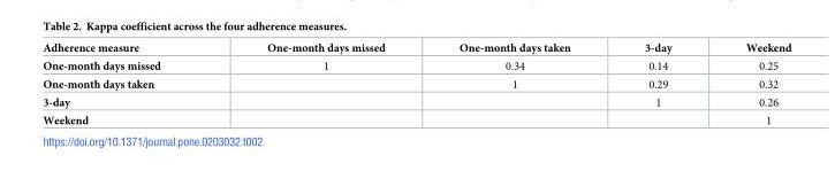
<table><thead><tr><td>Adherence measure</td><td>One-month days missed</td><td>One-month days taken</td><td>3-day</td><td>Weekend</td></tr></thead><tbody><tr><td>One-month days missed</td><td>1</td><td>0.34</td><td>0.14</td><td>0.25</td></tr><tr><td>One-month days taken</td><td></td><td>1</td><td>0.29</td><td>0.32</td></tr><tr><td>3-day</td><td></td><td></td><td>1</td><td>0.26</td></tr><tr><td>Weekend</td><td></td><td></td><td></td><td>1</td></tr></tbody></table>